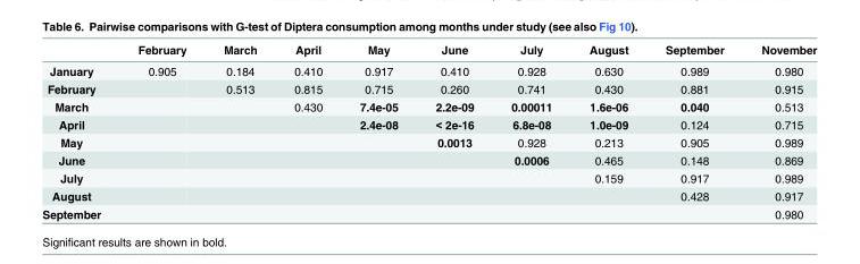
<table><thead><tr><td></td><td>February</td><td>March</td><td>April</td><td>May</td><td>June</td><td>July</td><td>August</td><td>September</td><td>November</td></tr></thead><tbody><tr><td>January</td><td>0.905</td><td>0.184</td><td>0.410</td><td>0.917</td><td>0.410</td><td>0.928</td><td>0.630</td><td>0.989</td><td>0.980</td></tr><tr><td>February</td><td></td><td>0.513</td><td>0.815</td><td>0.715</td><td>0.260</td><td>0.741</td><td>0.430</td><td>0.881</td><td>0.915</td></tr><tr><td>March</td><td></td><td></td><td>0.430</td><td>7.4e-05</td><td>2.2e-09</td><td>0.00011</td><td>1.6e-06</td><td>0.040</td><td>0.513</td></tr><tr><td>April</td><td></td><td></td><td></td><td>2.4e-08</td><td>&lt; 2e-16</td><td>6.8e-08</td><td>1.0e-09</td><td>0.124</td><td>0.715</td></tr><tr><td>May</td><td></td><td></td><td></td><td></td><td>0.0013</td><td>0.928</td><td>0.213</td><td>0.905</td><td>0.989</td></tr><tr><td>June</td><td></td><td></td><td></td><td></td><td></td><td>0.0006</td><td>0.465</td><td>0.148</td><td>0.869</td></tr><tr><td>July</td><td></td><td></td><td></td><td></td><td></td><td></td><td>0.159</td><td>0.917</td><td>0.989</td></tr><tr><td>August</td><td></td><td></td><td></td><td></td><td></td><td></td><td></td><td>0.428</td><td>0.917</td></tr><tr><td>September</td><td></td><td></td><td></td><td></td><td></td><td></td><td></td><td></td><td>0.980</td></tr></tbody></table>